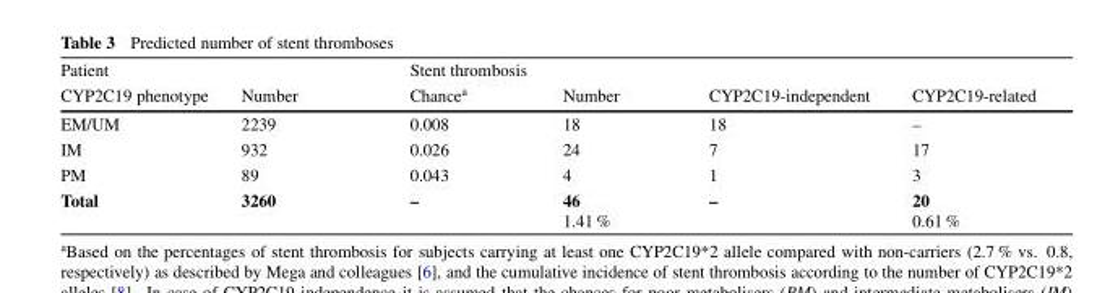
<table><thead><tr><td colspan="2">Patient</td><td colspan="4">Stent thrombosis</td></tr><tr><td>CYP2C19 phenotype</td><td>Number</td><td>Chance<sup>a</sup></td><td>Number</td><td>CYP2C19-independent</td><td>CYP2C19-related</td></tr></thead><tbody><tr><td>EM/UM</td><td>2239</td><td>0.008</td><td>18</td><td>18</td><td>–</td></tr><tr><td>IM</td><td>932</td><td>0.026</td><td>24</td><td>7</td><td>17</td></tr><tr><td>PM</td><td>89</td><td>0.043</td><td>4</td><td>1</td><td>3</td></tr><tr><td>Total</td><td>3260</td><td>–</td><td>46 1.41 %</td><td>–</td><td>20 0.61 %</td></tr></tbody></table>